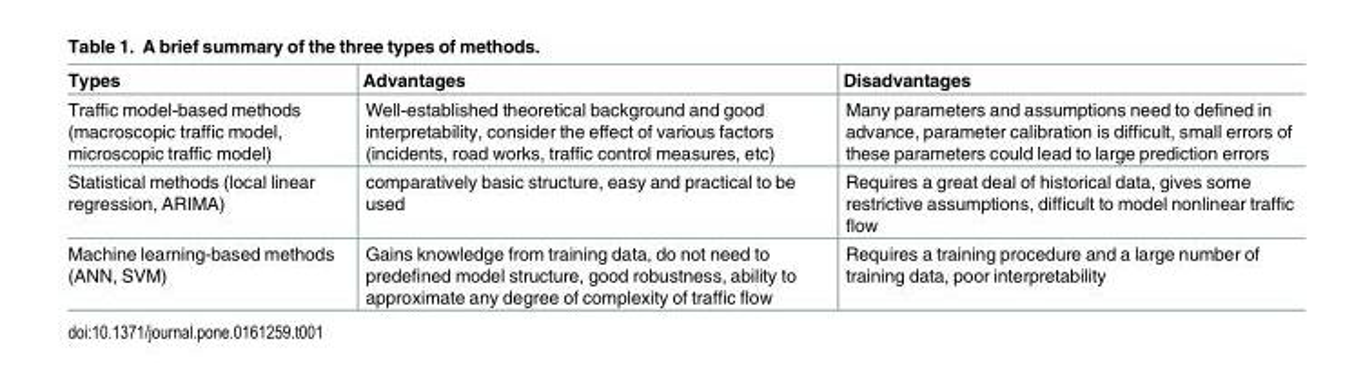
<table><thead><tr><td>Types</td><td>Advantages</td><td>Disadvantages</td></tr></thead><tbody><tr><td>Traffic model-based methods (macroscopic traffic model, microscopic traffic model)</td><td>Well-established theoretical background and good interpretability, consider the effect of various factors (incidents, road works, traffic control measures, etc)</td><td>Many parameters and assumptions need to defined in advance, parameter calibration is difficult, small errors of these parameters could lead to large prediction errors</td></tr><tr><td>Statistical methods (local linear regression, ARIMA)</td><td>comparatively basic structure, easy and practical to be used</td><td>Requires a great deal of historical data, gives some restrictive assumptions, difficult to model nonlinear traffic flow</td></tr><tr><td>Machine learning-based methods (ANN, SVM)</td><td>Gains knowledge from training data, do not need to predefined model structure, good robustness, ability to approximate any degree of complexity of traffic flow</td><td>Requires a training procedure and a large number of training data, poor interpretability</td></tr></tbody></table>